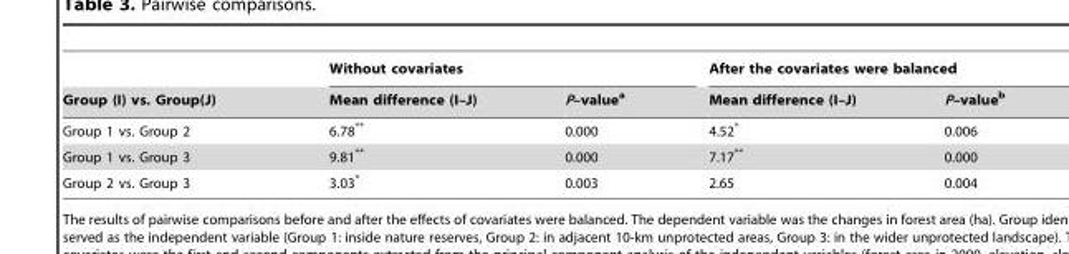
<table><thead><tr><td rowspan="2">Group (I) vs. Group(J)</td><td colspan="2">Without covariates</td><td colspan="2">After the covariates were balanced</td></tr><tr><td>Mean difference (I–J)</td><td>P–value<sup>a</sup></td><td>Mean difference (I–J)</td><td>P–value<sup>b</sup></td></tr></thead><tbody><tr><td>Group 1 vs. Group 2</td><td>6.78**</td><td>0.000</td><td>4.52*</td><td>0.006</td></tr><tr><td>Group 1 vs. Group 3</td><td>9.81**</td><td>0.000</td><td>7.17**</td><td>0.000</td></tr><tr><td>Group 2 vs. Group 3</td><td>3.03*</td><td>0.003</td><td>2.65</td><td>0.004</td></tr></tbody></table>